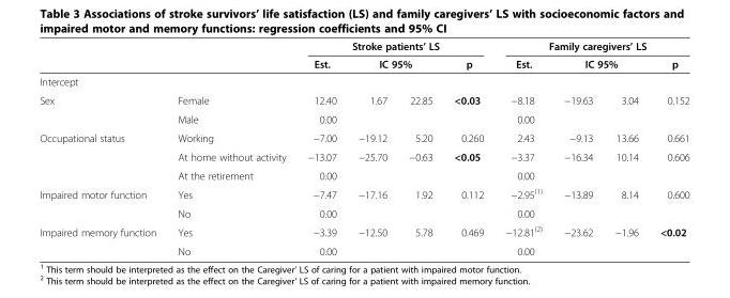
<table><thead><tr><td rowspan="3">Intercept</td><td rowspan="3"></td><td colspan="4">Stroke patients’ LS</td><td colspan="4">Family caregivers’ LS</td></tr><tr><td rowspan="2">Est.</td><td colspan="2">IC 95%</td><td rowspan="2">p</td><td rowspan="2">Est.</td><td colspan="2">IC 95%</td><td rowspan="2">p</td></tr><tr><td></td><td></td><td></td><td></td></tr></thead><tbody><tr><td rowspan="2">Sex</td><td>Female</td><td>12.40</td><td>1.67</td><td>22.85</td><td>&lt;0.03</td><td>−8.18</td><td>−19.63</td><td>3.04</td><td>0.152</td></tr><tr><td>Male</td><td>0.00</td><td></td><td></td><td></td><td>0.00</td><td></td><td></td><td></td></tr><tr><td rowspan="3">Occupational status</td><td>Working</td><td>−7.00</td><td>−19.12</td><td>5.20</td><td>0.260</td><td>2.43</td><td>−9.13</td><td>13.66</td><td>0.661</td></tr><tr><td>At home without activity</td><td>−13.07</td><td>−25.70</td><td>−0.63</td><td>&lt;0.05</td><td>−3.37</td><td>−16.34</td><td>10.14</td><td>0.606</td></tr><tr><td>At the retirement</td><td>0.00</td><td></td><td></td><td></td><td>0.00</td><td></td><td></td><td></td></tr><tr><td rowspan="2">Impaired motor function</td><td>Yes</td><td>−7.47</td><td>−17.16</td><td>1.92</td><td>0.112</td><td>−2.95<sup>(1)</sup></td><td>−13.89</td><td>8.14</td><td>0.600</td></tr><tr><td>No</td><td>0.00</td><td></td><td></td><td></td><td>0.00</td><td></td><td></td><td></td></tr><tr><td rowspan="2">Impaired memory function</td><td>Yes</td><td>−3.39</td><td>−12.50</td><td>5.78</td><td>0.469</td><td>−12.81<sup>(2)</sup></td><td>−23.62</td><td>−1.96</td><td>&lt;0.02</td></tr><tr><td>No</td><td>0.00</td><td></td><td></td><td></td><td>0.00</td><td></td><td></td><td></td></tr></tbody></table>